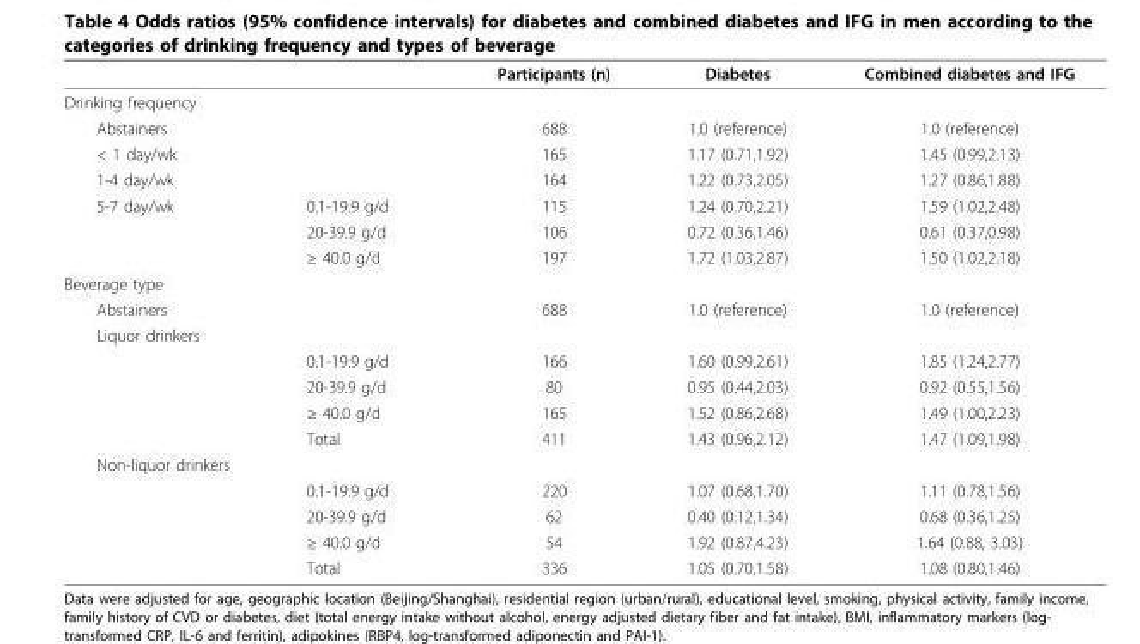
<table><thead><tr><td></td><td></td><td>Participants (n)</td><td>Diabetes</td><td>Combined diabetes and IFG</td></tr></thead><tbody><tr><td colspan="5">Drinking frequency</td></tr><tr><td>Abstainers</td><td></td><td>688</td><td>1.0 (reference)</td><td>1.0 (reference)</td></tr><tr><td>&lt; 1 day/wk</td><td></td><td>165</td><td>1.17 (0.71,1.92)</td><td>1.45 (0.99,2.13)</td></tr><tr><td>1-4 day/wk</td><td></td><td>164</td><td>1.22 (0.73,2.05)</td><td>1.27 (0.86,1.88)</td></tr><tr><td rowspan="3">5-7 day/wk</td><td>0.1-19.9 g/d</td><td>115</td><td>1.24 (0.70,2.21)</td><td>1.59 (1.02,2.48)</td></tr><tr><td>20-39.9 g/d</td><td>106</td><td>0.72 (0.36,1.46)</td><td>0.61 (0.37,0.98)</td></tr><tr><td>≥ 40.0 g/d</td><td>197</td><td>1.72 (1.03,2.87)</td><td>1.50 (1.02,2.18)</td></tr><tr><td colspan="5">Beverage type</td></tr><tr><td>Abstainers</td><td></td><td>688</td><td>1.0 (reference)</td><td>1.0 (reference)</td></tr><tr><td colspan="5">Liquor drinkers</td></tr><tr><td></td><td>0.1-19.9 g/d</td><td>166</td><td>1.60 (0.99,2.61)</td><td>1.85 (1.24,2.77)</td></tr><tr><td></td><td>20-39.9 g/d</td><td>80</td><td>0.95 (0.44,2.03)</td><td>0.92 (0.55,1.56)</td></tr><tr><td></td><td>≥ 40.0 g/d</td><td>165</td><td>1.52 (0.86,2.68)</td><td>1.49 (1.00,2.23)</td></tr><tr><td></td><td>Total</td><td>411</td><td>1.43 (0.96,2.12)</td><td>1.47 (1.09,1.98)</td></tr><tr><td colspan="5">Non-liquor drinkers</td></tr><tr><td></td><td>0.1-19.9 g/d</td><td>220</td><td>1.07 (0.68,1.70)</td><td>1.11 (0.78,1.56)</td></tr><tr><td></td><td>20-39.9 g/d</td><td>62</td><td>0.40 (0.12,1.34)</td><td>0.68 (0.36,1.25)</td></tr><tr><td></td><td>≥ 40.0 g/d</td><td>54</td><td>1.92 (0.87,4.23)</td><td>1.64 (0.88, 3.03)</td></tr><tr><td></td><td>Total</td><td>336</td><td>1.05 (0.70,1.58)</td><td>1.08 (0.80,1.46)</td></tr></tbody></table>